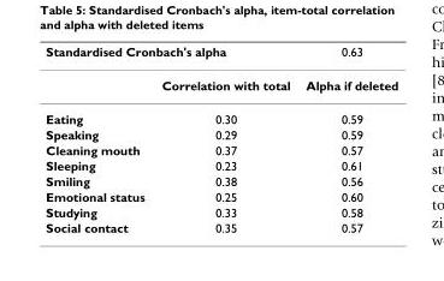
<table><thead><tr><td colspan="2">Standardised Cronbach&#x27;s alpha</td><td rowspan="2">0.63 Alpha if deleted</td></tr><tr><td></td><td>Correlation with total</td></tr></thead><tbody><tr><td>Eating</td><td>0.30</td><td>0.59</td></tr><tr><td>Speaking</td><td>0.29</td><td>0.59</td></tr><tr><td>Cleaning mouth</td><td>0.37</td><td>0.57</td></tr><tr><td>Sleeping</td><td>0.23</td><td>0.61</td></tr><tr><td>Smiling</td><td>0.38</td><td>0.56</td></tr><tr><td>Emotional status</td><td>0.25</td><td>0.60</td></tr><tr><td>Studying</td><td>0.33</td><td>0.58</td></tr><tr><td>Social contact</td><td>0.35</td><td>0.57</td></tr></tbody></table>